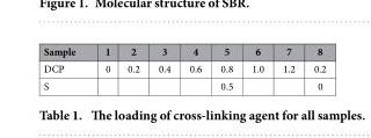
<table><thead><tr><td>Sample</td><td>1</td><td>2</td><td>3</td><td>4</td><td>5</td><td>6</td><td>7</td><td>8</td></tr></thead><tbody><tr><td>DCP</td><td>0</td><td>0.2</td><td>0.4</td><td>0.6</td><td>0.8</td><td>1.0</td><td>1.2</td><td>0.2</td></tr><tr><td>S</td><td></td><td></td><td></td><td></td><td>0.5</td><td></td><td></td><td>0</td></tr></tbody></table>